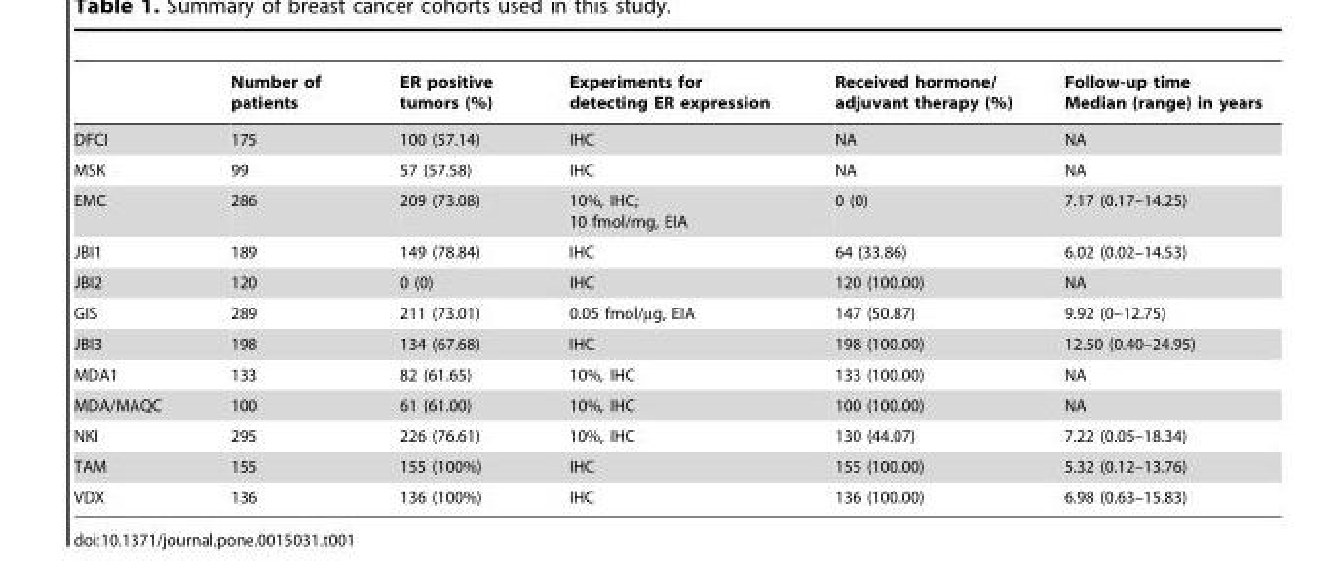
<table><thead><tr><td></td><td>Number of patients</td><td>ER positive tumors (%)</td><td>Experiments for detecting ER expression</td><td>Received hormone/ adjuvant therapy (%)</td><td>Follow-up time Median (range) in years</td></tr></thead><tbody><tr><td>DFCI</td><td>175</td><td>100 (57.14)</td><td>IHC</td><td>NA</td><td>NA</td></tr><tr><td>MSK</td><td>99</td><td>57 (57.58)</td><td>IHC</td><td>NA</td><td>NA</td></tr><tr><td>EMC</td><td>286</td><td>209 (73.08)</td><td>10%, IHC; 10 fmol/mg, EIA</td><td>0 (0)</td><td>7.17 (0.17–14.25)</td></tr><tr><td>JBI1</td><td>189</td><td>149 (78.84)</td><td>IHC</td><td>64 (33.86)</td><td>6.02 (0.02–14.53)</td></tr><tr><td>JBI2</td><td>120</td><td>0 (0)</td><td>IHC</td><td>120 (100.00)</td><td>NA</td></tr><tr><td>GIS</td><td>289</td><td>211 (73.01)</td><td>0.05 fmol/µg, EIA</td><td>147 (50.87)</td><td>9.92 (0–12.75)</td></tr><tr><td>JBI3</td><td>198</td><td>134 (67.68)</td><td>IHC</td><td>198 (100.00)</td><td>12.50 (0.40–24.95)</td></tr><tr><td>MDA1</td><td>133</td><td>82 (61.65)</td><td>10%, IHC</td><td>133 (100.00)</td><td>NA</td></tr><tr><td>MDA/MAQC</td><td>100</td><td>61 (61.00)</td><td>10%, IHC</td><td>100 (100.00)</td><td>NA</td></tr><tr><td>NKI</td><td>295</td><td>226 (76.61)</td><td>10%, IHC</td><td>130 (44.07)</td><td>7.22 (0.05–18.34)</td></tr><tr><td>TAM</td><td>155</td><td>155 (100%)</td><td>IHC</td><td>155 (100.00)</td><td>5.32 (0.12–13.76)</td></tr><tr><td>VDX</td><td>136</td><td>136 (100%)</td><td>IHC</td><td>136 (100.00)</td><td>6.98 (0.63–15.83)</td></tr></tbody></table>